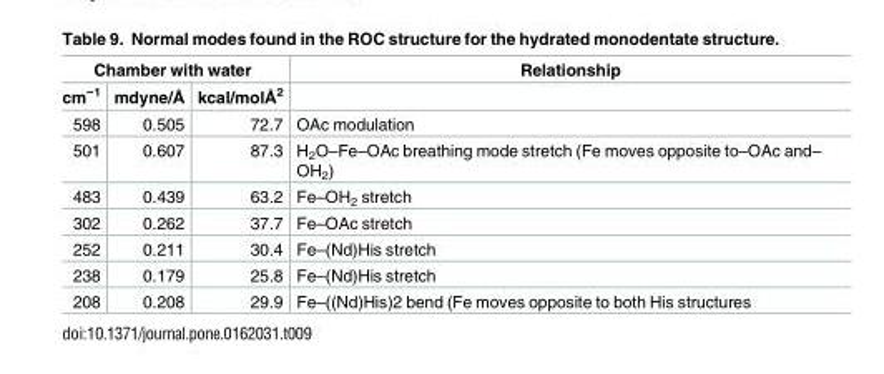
<table><thead><tr><td colspan="3">Chamber with water</td><td rowspan="2">Relationship</td></tr><tr><td>cm<sup>−1</sup></td><td>mdyne/Å</td><td>kcal/molÅ<sup>2</sup></td></tr></thead><tbody><tr><td>598</td><td>0.505</td><td>72.7</td><td>OAc modulation</td></tr><tr><td>501</td><td>0.607</td><td>87.3</td><td>H<sub>2</sub>O–Fe–OAc breathing mode stretch (Fe moves opposite to–OAc and– OH<sub>2</sub>)</td></tr><tr><td>483</td><td>0.439</td><td>63.2</td><td>Fe–OH<sub>2</sub> stretch</td></tr><tr><td>302</td><td>0.262</td><td>37.7</td><td>Fe–OAc stretch</td></tr><tr><td>252</td><td>0.211</td><td>30.4</td><td>Fe–(Nd)His stretch</td></tr><tr><td>238</td><td>0.179</td><td>25.8</td><td>Fe–(Nd)His stretch</td></tr><tr><td>208</td><td>0.208</td><td>29.9</td><td>Fe–((Nd)His)2 bend (Fe moves opposite to both His structures</td></tr></tbody></table>